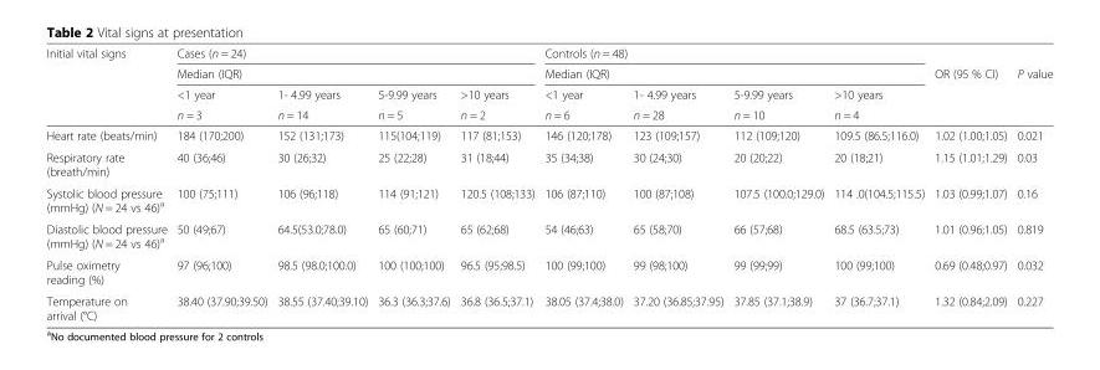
<table><thead><tr><td rowspan="4">Initial vital signs</td><td rowspan="2" colspan="4">Cases (n = 24) Median (IQR)</td><td rowspan="2" colspan="4">Controls (n = 48) Median (IQR)</td><td rowspan="4">OR (95 % CI)</td><td rowspan="4">P value</td></tr><tr></tr><tr><td rowspan="2">&lt;1 year n = 3</td><td rowspan="2">1- 4.99 years n = 14</td><td rowspan="2">5-9.99 years n = 5</td><td rowspan="2">&gt;10 years n = 2</td><td rowspan="2">&lt;1 year n = 6</td><td rowspan="2">1- 4.99 years n = 28</td><td rowspan="2">5-9.99 years n = 10</td><td rowspan="2">&gt;10 years n = 4</td></tr><tr></tr></thead><tbody><tr><td>Heart rate (beats/min)</td><td>184 (170;200)</td><td>152 (131;173)</td><td>115(104;119)</td><td>117 (81;153)</td><td>146 (120;178)</td><td>123 (109;157)</td><td>112 (109;120)</td><td>109.5 (86.5;116.0)</td><td>1.02 (1.00;1.05)</td><td>0.021</td></tr><tr><td>Respiratory rate (breath/min)</td><td>40 (36;46)</td><td>30 (26;32)</td><td>25 (22;28)</td><td>31 (18;44)</td><td>35 (34;38)</td><td>30 (24;30)</td><td>20 (20;22)</td><td>20 (18;21)</td><td>1.15 (1.01;1.29)</td><td>0.03</td></tr><tr><td>Systolic blood pressure (mmHg) (N = 24 vs 46)<sup>a</sup></td><td>100 (75;111)</td><td>106 (96;118)</td><td>114 (91;121)</td><td>120.5 (108;133)</td><td>106 (87;110)</td><td>100 (87;108)</td><td>107.5 (100.0;129.0)</td><td>114 .0(104.5;115.5)</td><td>1.03 (0.99;1.07)</td><td>0.16</td></tr><tr><td>Diastolic blood pressure (mmHg) (N = 24 vs 46)<sup>a</sup></td><td>50 (49;67)</td><td>64.5(53.0;78.0)</td><td>65 (60;71)</td><td>65 (62;68)</td><td>54 (46;63)</td><td>65 (58;70)</td><td>66 (57;68)</td><td>68.5 (63.5;73)</td><td>1.01 (0.96;1.05)</td><td>0.819</td></tr><tr><td>Pulse oximetry reading (%)</td><td>97 (96;100)</td><td>98.5 (98.0;100.0)</td><td>100 (100;100)</td><td>96.5 (95;98.5)</td><td>100 (99;100)</td><td>99 (98;100)</td><td>99 (99;99)</td><td>100 (99;100)</td><td>0.69 (0.48;0.97)</td><td>0.032</td></tr><tr><td>Temperature on arrival (°C)</td><td>38.40 (37.90;39.50)</td><td>38.55 (37.40;39.10)</td><td>36.3 (36.3;37.6)</td><td>36.8 (36.5;37.1)</td><td>38.05 (37.4;38.0)</td><td>37.20 (36.85;37.95)</td><td>37.85 (37.1;38.9)</td><td>37 (36.7;37.1)</td><td>1.32 (0.84;2.09)</td><td>0.227</td></tr></tbody></table>